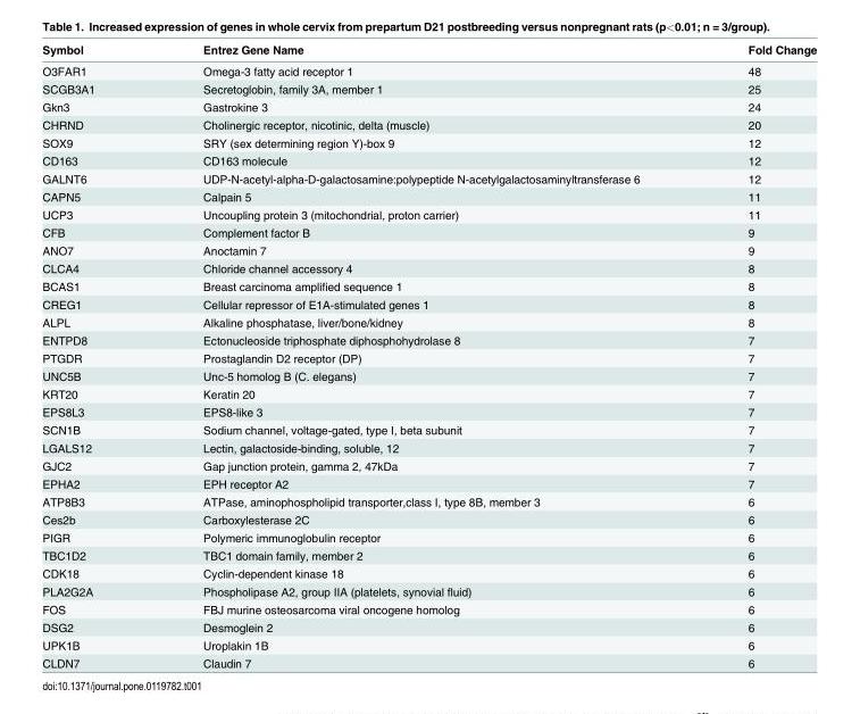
<table><thead><tr><td>Symbol</td><td>Entrez Gene Name</td><td>Fold Change</td></tr></thead><tbody><tr><td>O3FAR1</td><td>Omega-3 fatty acid receptor 1</td><td>48</td></tr><tr><td>SCGB3A1</td><td>Secretoglobin, family 3A, member 1</td><td>25</td></tr><tr><td>Gkn3</td><td>Gastrokine 3</td><td>24</td></tr><tr><td>CHRND</td><td>Cholinergic receptor, nicotinic, delta (muscle)</td><td>20</td></tr><tr><td>SOX9</td><td>SRY (sex determining region Y)-box 9</td><td>12</td></tr><tr><td>CD163</td><td>CD163 molecule</td><td>12</td></tr><tr><td>GALNT6</td><td>UDP-N-acetyl-alpha-D-galactosamine:polypeptide N-acetylgalactosaminyltransferase 6</td><td>12</td></tr><tr><td>CAPN5</td><td>Calpain 5</td><td>11</td></tr><tr><td>UCP3</td><td>Uncoupling protein 3 (mitochondrial, proton carrier)</td><td>11</td></tr><tr><td>CFB</td><td>Complement factor B</td><td>9</td></tr><tr><td>ANO7</td><td>Anoctamin 7</td><td>9</td></tr><tr><td>CLCA4</td><td>Chloride channel accessory 4</td><td>8</td></tr><tr><td>BCAS1</td><td>Breast carcinoma amplified sequence 1</td><td>8</td></tr><tr><td>CREG1</td><td>Cellular repressor of E1A-stimulated genes 1</td><td>8</td></tr><tr><td>ALPL</td><td>Alkaline phosphatase, liver/bone/kidney</td><td>8</td></tr><tr><td>ENTPD8</td><td>Ectonucleoside triphosphate diphosphohydrolase 8</td><td>7</td></tr><tr><td>PTGDR</td><td>Prostaglandin D2 receptor (DP)</td><td>7</td></tr><tr><td>UNC5B</td><td>Unc-5 homolog B (C. elegans)</td><td>7</td></tr><tr><td>KRT20</td><td>Keratin 20</td><td>7</td></tr><tr><td>EPS8L3</td><td>EPS8-like 3</td><td>7</td></tr><tr><td>SCN1B</td><td>Sodium channel, voltage-gated, type I, beta subunit</td><td>7</td></tr><tr><td>LGALS12</td><td>Lectin, galactoside-binding, soluble, 12</td><td>7</td></tr><tr><td>GJC2</td><td>Gap junction protein, gamma 2, 47kDa</td><td>7</td></tr><tr><td>EPHA2</td><td>EPH receptor A2</td><td>7</td></tr><tr><td>ATP8B3</td><td>ATPase, aminophospholipid transporter,class I, type 8B, member 3</td><td>6</td></tr><tr><td>Ces2b</td><td>Carboxylesterase 2C</td><td>6</td></tr><tr><td>PIGR</td><td>Polymeric immunoglobulin receptor</td><td>6</td></tr><tr><td>TBC1D2</td><td>TBC1 domain family, member 2</td><td>6</td></tr><tr><td>CDK18</td><td>Cyclin-dependent kinase 18</td><td>6</td></tr><tr><td>PLA2G2A</td><td>Phospholipase A2, group IIA (platelets, synovial fluid)</td><td>6</td></tr><tr><td>FOS</td><td>FBJ murine osteosarcoma viral oncogene homolog</td><td>6</td></tr><tr><td>DSG2</td><td>Desmoglein 2</td><td>6</td></tr><tr><td>UPK1B</td><td>Uroplakin 1B</td><td>6</td></tr><tr><td>CLDN7</td><td>Claudin 7</td><td>6</td></tr></tbody></table>